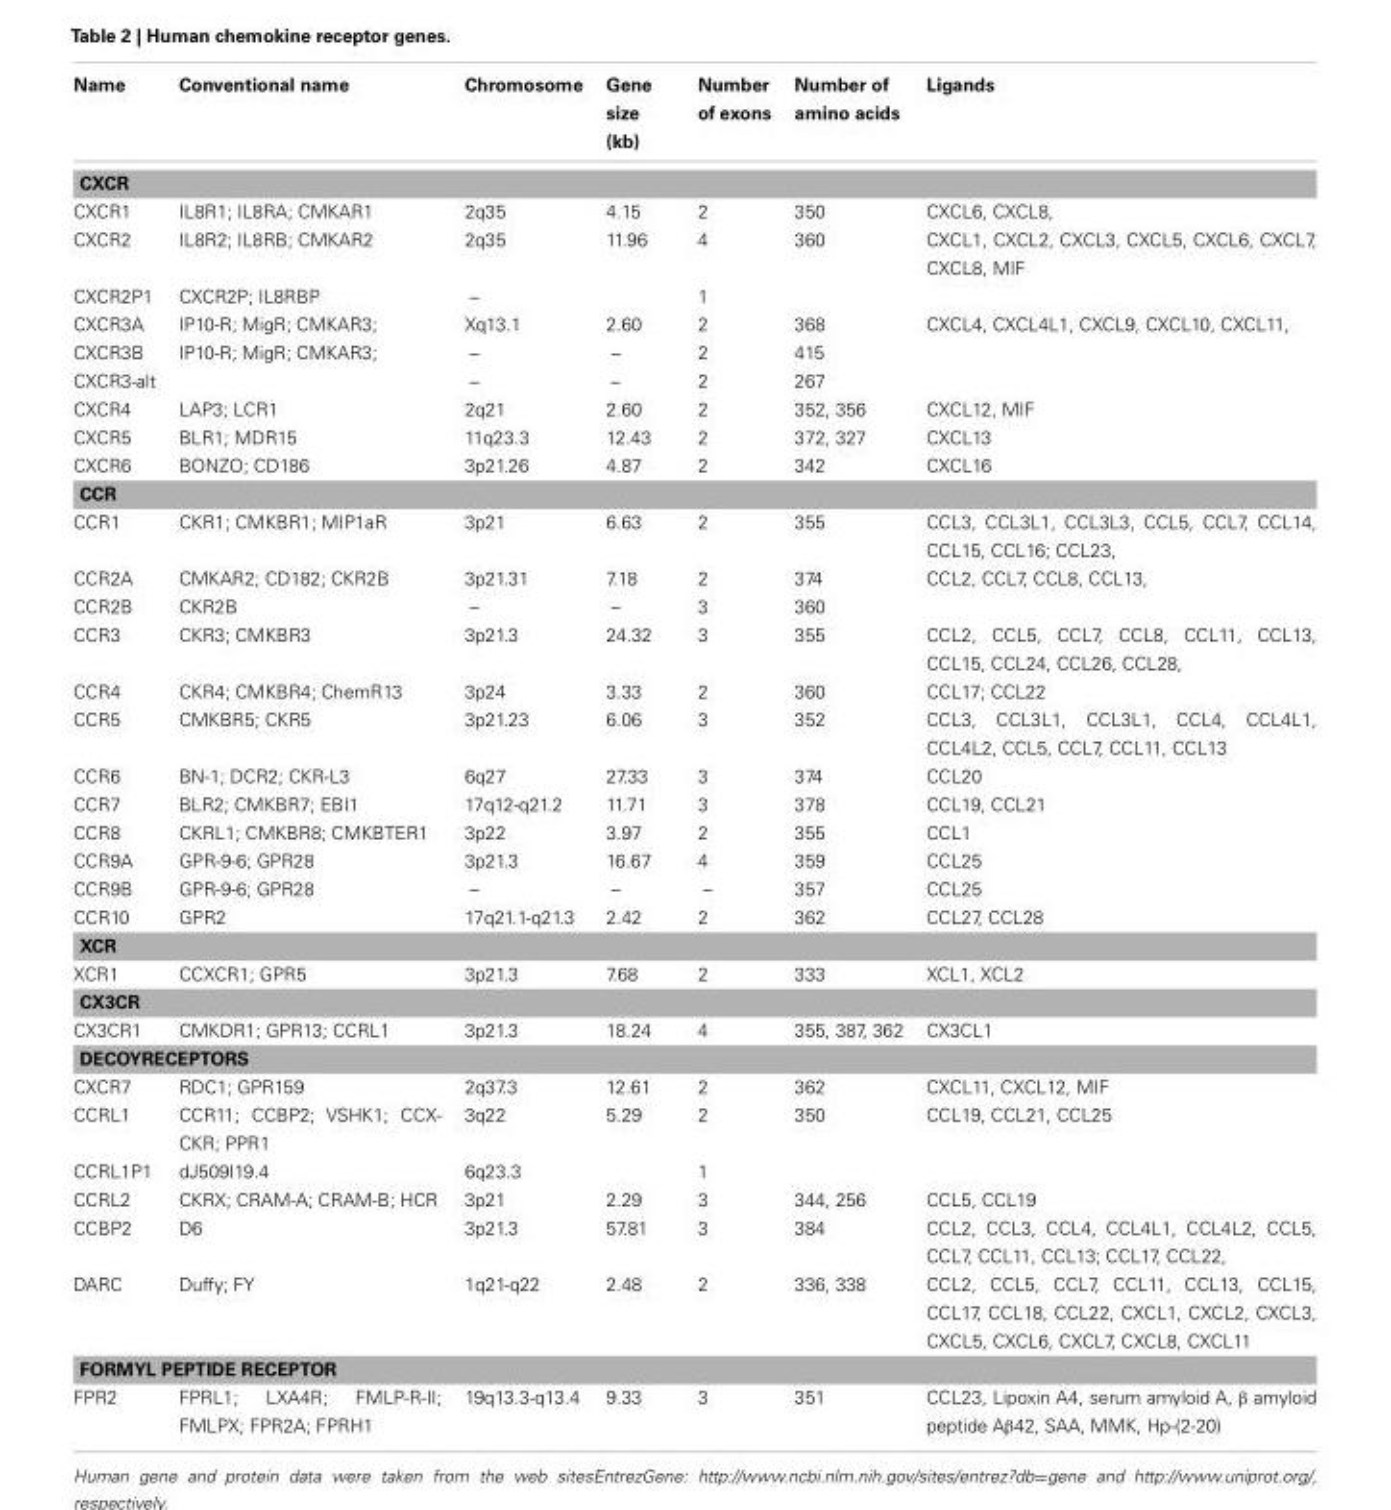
<table><thead><tr><td>Name</td><td>Conventional name</td><td>Chromosome</td><td>Gene size (kb)</td><td>Number of exons</td><td>Number of amino acids</td><td>Ligands</td></tr></thead><tbody><tr><td colspan="7">CXCR</td></tr><tr><td>CXCR1</td><td>IL8R1; IL8RA; CMKAR1</td><td>2q35</td><td>4.15</td><td>2</td><td>350</td><td>CXCL6, CXCL8,</td></tr><tr><td>CXCR2</td><td>IL8R2; IL8RB; CMKAR2</td><td>2q35</td><td>11.96</td><td>4</td><td>360</td><td>CXCL1, CXCL2, CXCL3, CXCL5, CXCL6, CXCL7, CXCL8, MIF</td></tr><tr><td>CXCR2P1</td><td>CXCR2P; IL8RBP</td><td>–</td><td></td><td>1</td><td></td><td></td></tr><tr><td>CXCR3A</td><td>IP10-R; MigR; CMKAR3;</td><td>Xq13.1</td><td>2.60</td><td>2</td><td>368</td><td>CXCL4, CXCL4L1, CXCL9, CXCL10, CXCL11,</td></tr><tr><td>CXCR3B</td><td>IP10-R; MigR; CMKAR3;</td><td>–</td><td>–</td><td>2</td><td>415</td><td></td></tr><tr><td>CXCR3-alt</td><td></td><td>–</td><td>–</td><td>2</td><td>267</td><td></td></tr><tr><td>CXCR4</td><td>LAP3; LCR1</td><td>2q21</td><td>2.60</td><td>2</td><td>352, 356</td><td>CXCL12, MIF</td></tr><tr><td>CXCR5</td><td>BLR1; MDR15</td><td>11q23.3</td><td>12.43</td><td>2</td><td>372, 327</td><td>CXCL13</td></tr><tr><td>CXCR6</td><td>BONZO; CD186</td><td>3p21.26</td><td>4.87</td><td>2</td><td>342</td><td>CXCL16</td></tr><tr><td colspan="7">CCR</td></tr><tr><td>CCR1</td><td>CKR1; CMKBR1; MIP1aR</td><td>3p21</td><td>6.63</td><td>2</td><td>355</td><td>CCL3, CCL3L1, CCL3L3, CCL5, CCL7, CCL14, CCL15, CCL16; CCL23,</td></tr><tr><td>CCR2A</td><td>CMKAR2; CD182; CKR2B</td><td>3p21.31</td><td>7.18</td><td>2</td><td>374</td><td>CCL2, CCL7, CCL8, CCL13,</td></tr><tr><td>CCR2B</td><td>CKR2B</td><td>–</td><td>–</td><td>3</td><td>360</td><td></td></tr><tr><td>CCR3</td><td>CKR3; CMKBR3</td><td>3p21.3</td><td>24.32</td><td>3</td><td>355</td><td>CCL2, CCL5, CCL7, CCL8, CCL11, CCL13, CCL15, CCL24, CCL26, CCL28,</td></tr><tr><td>CCR4</td><td>CKR4; CMKBR4; ChemR13</td><td>3p24</td><td>3.33</td><td>2</td><td>360</td><td>CCL17; CCL22</td></tr><tr><td>CCR5</td><td>CMKBR5; CKR5</td><td>3p21.23</td><td>6.06</td><td>3</td><td>352</td><td>CCL3, CCL3L1, CCL3L1, CCL4, CCL4L1, CCL4L2, CCL5, CCL7, CCL11, CCL13</td></tr><tr><td>CCR6</td><td>BN-1; DCR2; CKR-L3</td><td>6q27</td><td>27.33</td><td>3</td><td>374</td><td>CCL20</td></tr><tr><td>CCR7</td><td>BLR2; CMKBR7; EBI1</td><td>17q12-q21.2</td><td>11.71</td><td>3</td><td>378</td><td>CCL19, CCL21</td></tr><tr><td>CCR8</td><td>CKRL1; CMKBR8; CMKBTER1</td><td>3p22</td><td>3.97</td><td>2</td><td>355</td><td>CCL1</td></tr><tr><td>CCR9A</td><td>GPR-9-6; GPR28</td><td>3p21.3</td><td>16.67</td><td>4</td><td>359</td><td>CCL25</td></tr><tr><td>CCR9B</td><td>GPR-9-6; GPR28</td><td>–</td><td>–</td><td>–</td><td>357</td><td>CCL25</td></tr><tr><td>CCR10</td><td>GPR2</td><td>17q21.1-q21.3</td><td>2.42</td><td>2</td><td>362</td><td>CCL27, CCL28</td></tr><tr><td colspan="7">XCR</td></tr><tr><td>XCR1</td><td>CCXCR1; GPR5</td><td>3p21.3</td><td>7.68</td><td>2</td><td>333</td><td>XCL1, XCL2</td></tr><tr><td colspan="7">CX3CR</td></tr><tr><td>CX3CR1</td><td>CMKDR1; GPR13; CCRL1</td><td>3p21.3</td><td>18.24</td><td>4</td><td>355, 387, 362</td><td>CX3CL1</td></tr><tr><td colspan="7">DECOYRECEPTORS</td></tr><tr><td>CXCR7</td><td>RDC1; GPR159</td><td>2q37.3</td><td>12.61</td><td>2</td><td>362</td><td>CXCL11, CXCL12, MIF</td></tr><tr><td>CCRL1</td><td>CCR11; CCBP2; VSHK1; CCX- CKR; PPR1</td><td>3q22</td><td>5.29</td><td>2</td><td>350</td><td>CCL19, CCL21, CCL25</td></tr><tr><td>CCRL1P1</td><td>dJ509I19.4</td><td>6q23.3</td><td></td><td>1</td><td></td><td></td></tr><tr><td>CCRL2</td><td>CKRX; CRAM-A; CRAM-B; HCR</td><td>3p21</td><td>2.29</td><td>3</td><td>344, 256</td><td>CCL5, CCL19</td></tr><tr><td>CCBP2</td><td>D6</td><td>3p21.3</td><td>57.81</td><td>3</td><td>384</td><td>CCL2, CCL3, CCL4, CCL4L1, CCL4L2, CCL5, CCL7, CCL11, CCL13; CCL17, CCL22,</td></tr><tr><td>DARC</td><td>Duffy; FY</td><td>1q21-q22</td><td>2.48</td><td>2</td><td>336, 338</td><td>CCL2, CCL5, CCL7, CCL11, CCL13, CCL15, CCL17, CCL18, CCL22, CXCL1, CXCL2, CXCL3, CXCL5, CXCL6, CXCL7, CXCL8, CXCL11</td></tr><tr><td colspan="7">FORMYL PEPTIDE RECEPTOR</td></tr><tr><td>FPR2</td><td>FPRL1; LXA4R; FMLP-R-II; FMLPX; FPR2A; FPRH1</td><td>19q13.3-q13.4</td><td>9.33</td><td>3</td><td>351</td><td>CCL23, Lipoxin A4, serum amyloid A, β amyloid peptide Aβ42, SAA, MMK, Hp-(2-20)</td></tr></tbody></table>